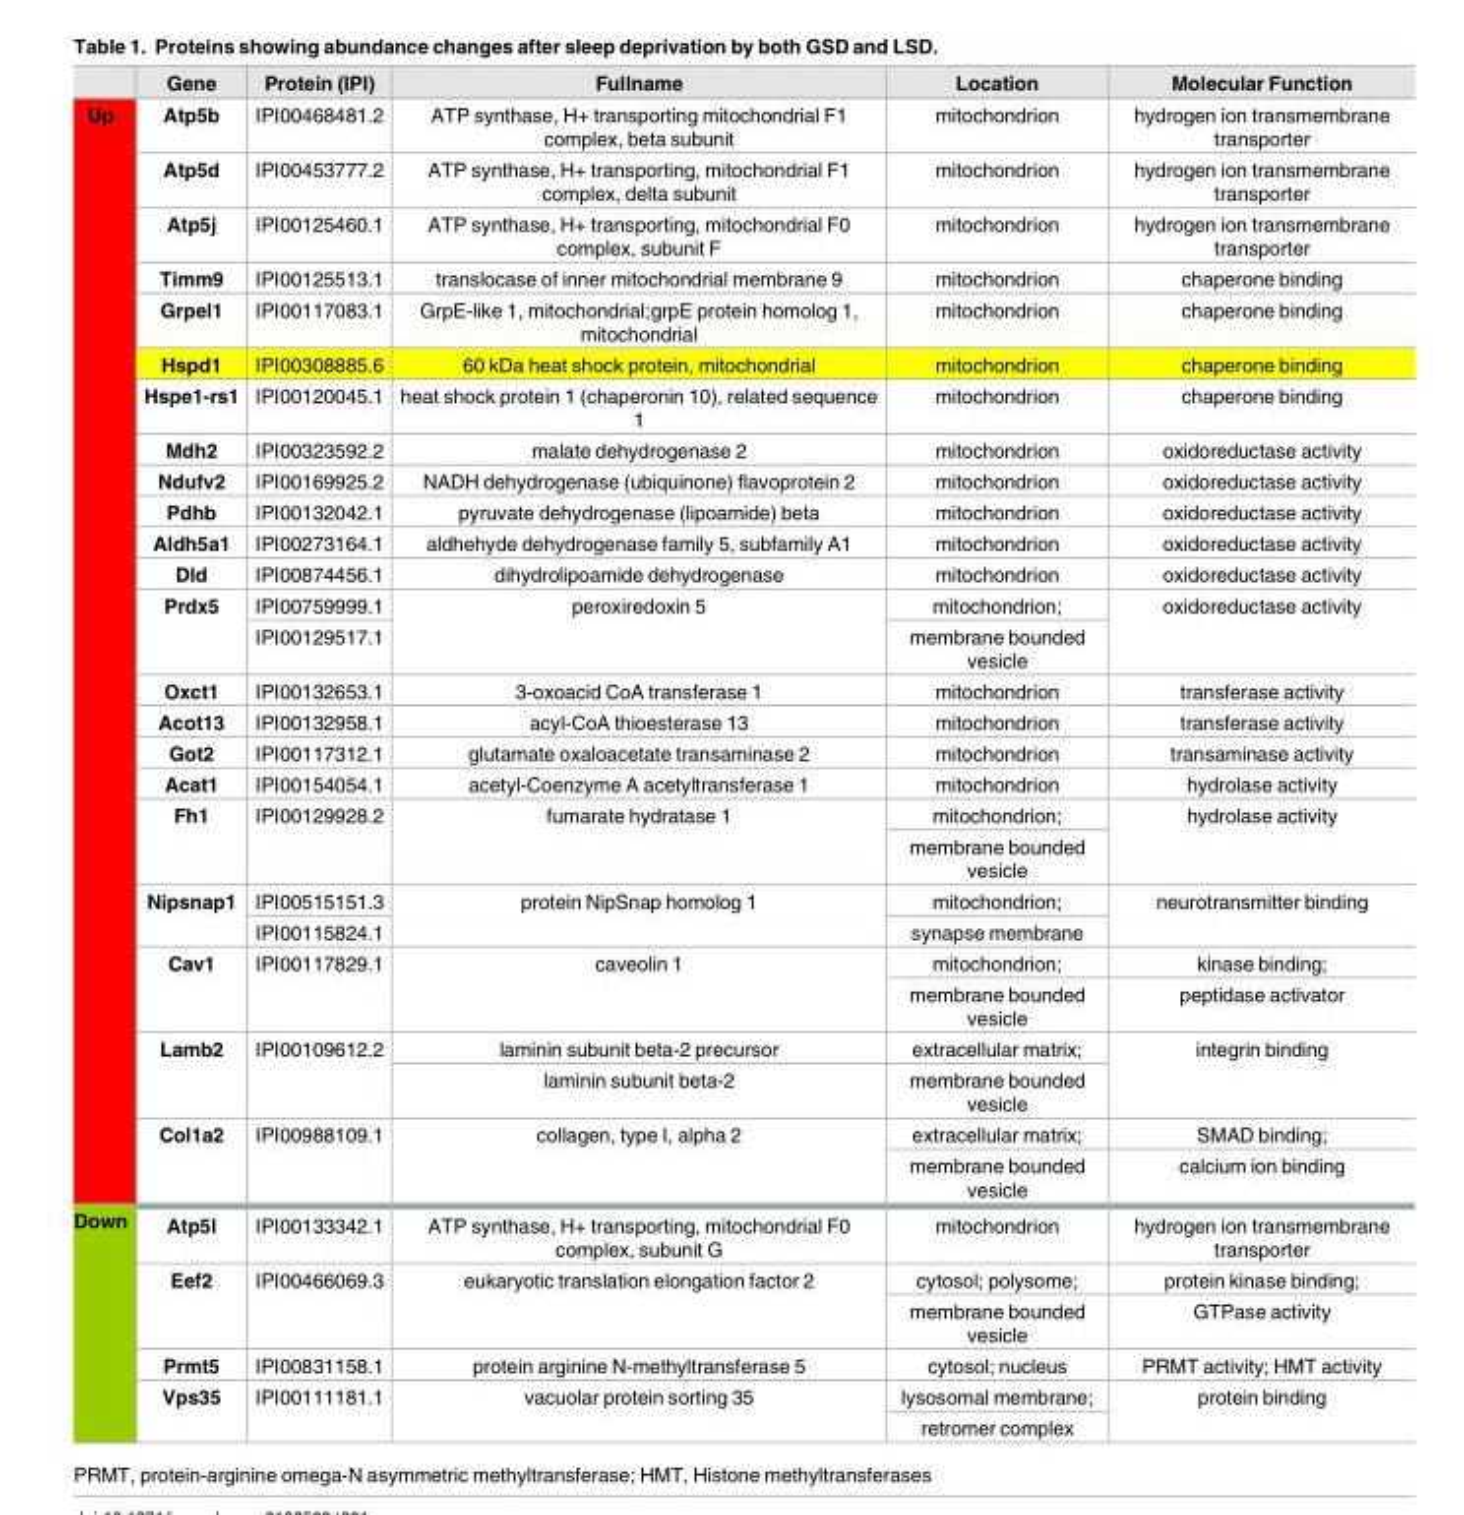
<table><thead><tr><td></td><td>Gene</td><td>Protein (IPI)</td><td>Fullname</td><td>Location</td><td>Molecular Function</td></tr></thead><tbody><tr><td rowspan="28">Up</td><td>Atp5b</td><td>IPI00468481.2</td><td>ATP synthase, H+ transporting mitochondrial F1 complex, beta subunit</td><td>mitochondrion</td><td>hydrogen ion transmembrane transporter</td></tr><tr><td>Atp5d</td><td>IPI00453777.2</td><td>ATP synthase, H+ transporting, mitochondrial F1 complex, delta subunit</td><td>mitochondrion</td><td>hydrogen ion transmembrane transporter</td></tr><tr><td>Atp5j</td><td>IPI00125460.1</td><td>ATP synthase, H+ transporting, mitochondrial F0 complex, subunit F</td><td>mitochondrion</td><td>hydrogen ion transmembrane transporter</td></tr><tr><td>Timm9</td><td>IPI00125513.1</td><td>translocase of inner mitochondrial membrane 9</td><td>mitochondrion</td><td>chaperone binding</td></tr><tr><td>Grpel1</td><td>IPI00117083.1</td><td>GrpE-like 1, mitochondrial;grpE protein homolog 1, mitochondrial</td><td>mitochondrion</td><td>chaperone binding</td></tr><tr><td>Hspd1</td><td>IPI00308885.6</td><td>60 kDa heat shock protein, mitochondrial</td><td>mitochondrion</td><td>chaperone binding</td></tr><tr><td>Hspe1-rs1</td><td>IPI00120045.1</td><td>heat shock protein 1 (chaperonin 10), related sequence 1</td><td>mitochondrion</td><td>chaperone binding</td></tr><tr><td>Mdh2</td><td>IPI00323592.2</td><td>malate dehydrogenase 2</td><td>mitochondrion</td><td>oxidoreductase activity</td></tr><tr><td>Ndufv2</td><td>IPI00169925.2</td><td>NADH dehydrogenase (ubiquinone) flavoprotein 2</td><td>mitochondrion</td><td>oxidoreductase activity</td></tr><tr><td>Pdhb</td><td>IPI00132042.1</td><td>pyruvate dehydrogenase (lipoamide) beta</td><td>mitochondrion</td><td>oxidoreductase activity</td></tr><tr><td>Aldh5a1</td><td>IPI00273164.1</td><td>aldhehyde dehydrogenase family 5, subfamily A1</td><td>mitochondrion</td><td>oxidoreductase activity</td></tr><tr><td>Dld</td><td>IPI00874456.1</td><td>dihydrolipoamide dehydrogenase</td><td>mitochondrion</td><td>oxidoreductase activity</td></tr><tr><td rowspan="2">Prdx5</td><td>IPI00759999.1</td><td rowspan="2">peroxiredoxin 5</td><td>mitochondrion;</td><td rowspan="2">oxidoreductase activity</td></tr><tr><td>IPI00129517.1</td><td>membrane bounded vesicle</td></tr><tr><td>Oxct1</td><td>IPI00132653.1</td><td>3-oxoacid CoA transferase 1</td><td>mitochondrion</td><td>transferase activity</td></tr><tr><td>Acot13</td><td>IPI00132958.1</td><td>acyl-CoA thioesterase 13</td><td>mitochondrion</td><td>transferase activity</td></tr><tr><td>Got2</td><td>IPI00117312.1</td><td>glutamate oxaloacetate transaminase 2</td><td>mitochondrion</td><td>transaminase activity</td></tr><tr><td>Acat1</td><td>IPI00154054.1</td><td>acetyl-Coenzyme A acetyltransferase 1</td><td>mitochondrion</td><td>hydrolase activity</td></tr><tr><td rowspan="2">Fh1</td><td rowspan="2">IPI00129928.2</td><td rowspan="2">fumarate hydratase 1</td><td>mitochondrion;</td><td rowspan="2">hydrolase activity</td></tr><tr><td>membrane bounded vesicle</td></tr><tr><td rowspan="2">Nipsnap1</td><td>IPI00515151.3</td><td rowspan="2">protein NipSnap homolog 1</td><td>mitochondrion;</td><td rowspan="2">neurotransmitter binding</td></tr><tr><td>IPI00115824.1</td><td>synapse membrane</td></tr><tr><td rowspan="2">Cav1</td><td rowspan="2">IPI00117829.1</td><td rowspan="2">caveolin 1</td><td>mitochondrion;</td><td>kinase binding;</td></tr><tr><td>membrane bounded vesicle</td><td>peptidase activator</td></tr><tr><td rowspan="2">Lamb2</td><td rowspan="2">IPI00109612.2</td><td>laminin subunit beta-2 precursor</td><td>extracellular matrix;</td><td rowspan="2">integrin binding</td></tr><tr><td>laminin subunit beta-2</td><td>membrane bounded vesicle</td></tr><tr><td rowspan="2">Col1a2</td><td rowspan="2">IPI00988109.1</td><td rowspan="2">collagen, type I, alpha 2</td><td>extracellular matrix;</td><td>SMAD binding;</td></tr><tr><td>membrane bounded vesicle</td><td>calcium ion binding</td></tr><tr><td rowspan="6">Down</td><td>Atp5l</td><td>IPI00133342.1</td><td>ATP synthase, H+ transporting, mitochondrial F0 complex, subunit G</td><td>mitochondrion</td><td>hydrogen ion transmembrane transporter</td></tr><tr><td rowspan="2">Eef2</td><td rowspan="2">IPI00466069.3</td><td rowspan="2">eukaryotic translation elongation factor 2</td><td>cytosol; polysome;</td><td>protein kinase binding;</td></tr><tr><td>membrane bounded vesicle</td><td>GTPase activity</td></tr><tr><td>Prmt5</td><td>IPI00831158.1</td><td>protein arginine N-methyltransferase 5</td><td>cytosol; nucleus</td><td>PRMT activity; HMT activity</td></tr><tr><td rowspan="2">Vps35</td><td rowspan="2">IPI00111181.1</td><td rowspan="2">vacuolar protein sorting 35</td><td>lysosomal membrane;</td><td rowspan="2">protein binding</td></tr><tr><td>retromer complex</td></tr></tbody></table>